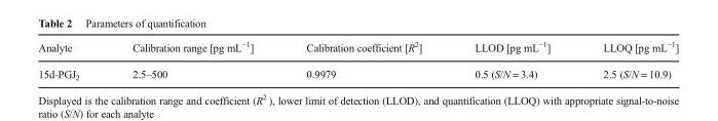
<table><thead><tr><td>Analyte</td><td>Calibration range [pg mL<sup>−1</sup>]</td><td>Calibration coefficient [R<sup>2</sup>]</td><td>LLOD [pg mL<sup>−1</sup>]</td><td>LLOQ [pg mL<sup>−1</sup>]</td></tr></thead><tbody><tr><td>15d-PGJ<sub>2</sub></td><td>2.5–500</td><td>0.9979</td><td>0.5 (S/N = 3.4)</td><td>2.5 (S/N = 10.9)</td></tr></tbody></table>